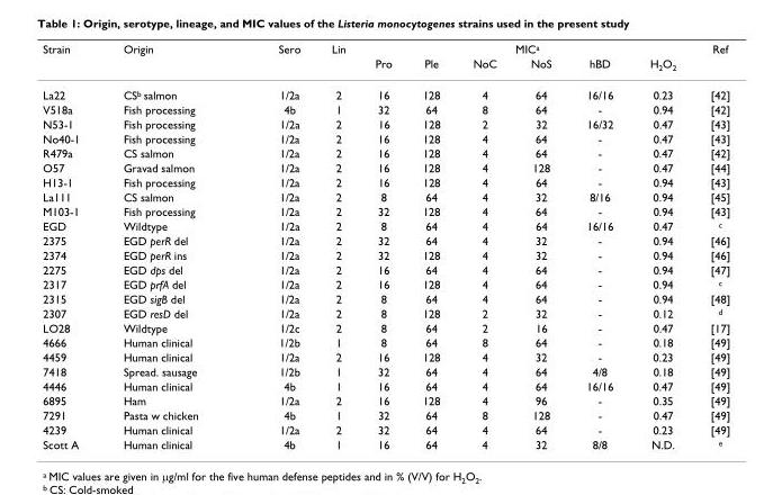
<table><thead><tr><td rowspan="2">Strain</td><td rowspan="2">Origin</td><td rowspan="2">Sero</td><td rowspan="2">Lin</td><td colspan="6">MIC<sup>a</sup></td><td rowspan="2">Ref</td></tr><tr><td>Pro</td><td>Ple</td><td>NoC</td><td>NoS</td><td>hBD</td><td>H<sub>2</sub>O<sub>2</sub></td></tr></thead><tbody><tr><td>La22</td><td>CS<sup>b</sup> salmon</td><td>1/2a</td><td>2</td><td>16</td><td>128</td><td>4</td><td>64</td><td>16/16</td><td>0.23</td><td>[42]</td></tr><tr><td>V518a</td><td>Fish processing</td><td>4b</td><td>1</td><td>32</td><td>64</td><td>8</td><td>64</td><td>-</td><td>0.94</td><td>[42]</td></tr><tr><td>N53-1</td><td>Fish processing</td><td>1/2a</td><td>2</td><td>16</td><td>128</td><td>2</td><td>32</td><td>16/32</td><td>0.47</td><td>[43]</td></tr><tr><td>No40-1</td><td>Fish processing</td><td>1/2a</td><td>2</td><td>16</td><td>128</td><td>4</td><td>64</td><td>-</td><td>0.47</td><td>[43]</td></tr><tr><td>R479a</td><td>CS salmon</td><td>1/2a</td><td>2</td><td>16</td><td>128</td><td>4</td><td>64</td><td>-</td><td>0.47</td><td>[42]</td></tr><tr><td>O57</td><td>Gravad salmon</td><td>1/2a</td><td>2</td><td>16</td><td>128</td><td>4</td><td>128</td><td>-</td><td>0.47</td><td>[44]</td></tr><tr><td>H13-1</td><td>Fish processing</td><td>1/2a</td><td>2</td><td>16</td><td>128</td><td>4</td><td>64</td><td>-</td><td>0.94</td><td>[43]</td></tr><tr><td>La111</td><td>CS salmon</td><td>1/2a</td><td>2</td><td>8</td><td>64</td><td>4</td><td>32</td><td>8/16</td><td>0.94</td><td>[45]</td></tr><tr><td>M103-1</td><td>Fish processing</td><td>1/2a</td><td>2</td><td>32</td><td>128</td><td>4</td><td>64</td><td>-</td><td>0.94</td><td>[43]</td></tr><tr><td>EGD</td><td>Wildtype</td><td>1/2a</td><td>2</td><td>8</td><td>64</td><td>4</td><td>64</td><td>16/16</td><td>0.47</td><td><sup>c</sup></td></tr><tr><td>2375</td><td>EGD perR del</td><td>1/2a</td><td>2</td><td>32</td><td>64</td><td>4</td><td>32</td><td>-</td><td>0.94</td><td>[46]</td></tr><tr><td>2374</td><td>EGD perR ins</td><td>1/2a</td><td>2</td><td>32</td><td>128</td><td>4</td><td>32</td><td>-</td><td>0.94</td><td>[46]</td></tr><tr><td>2275</td><td>EGD dps del</td><td>1/2a</td><td>2</td><td>16</td><td>64</td><td>4</td><td>64</td><td>-</td><td>0.94</td><td>[47]</td></tr><tr><td>2317</td><td>EGD prfA del</td><td>1/2a</td><td>2</td><td>16</td><td>128</td><td>4</td><td>64</td><td>-</td><td>0.94</td><td><sup>c</sup></td></tr><tr><td>2315</td><td>EGD sigB del</td><td>1/2a</td><td>2</td><td>8</td><td>64</td><td>4</td><td>64</td><td>-</td><td>0.94</td><td>[48]</td></tr><tr><td>2307</td><td>EGD resD del</td><td>1/2a</td><td>2</td><td>8</td><td>128</td><td>2</td><td>32</td><td>-</td><td>0.12</td><td><sup>d</sup></td></tr><tr><td>LO28</td><td>Wildtype</td><td>1/2c</td><td>2</td><td>8</td><td>64</td><td>2</td><td>16</td><td>-</td><td>0.47</td><td>[17]</td></tr><tr><td>4666</td><td>Human clinical</td><td>1/2b</td><td>1</td><td>8</td><td>64</td><td>8</td><td>64</td><td>-</td><td>0.18</td><td>[49]</td></tr><tr><td>4459</td><td>Human clinical</td><td>1/2a</td><td>2</td><td>16</td><td>128</td><td>4</td><td>32</td><td>-</td><td>0.23</td><td>[49]</td></tr><tr><td>7418</td><td>Spread. sausage</td><td>1/2b</td><td>1</td><td>32</td><td>64</td><td>4</td><td>64</td><td>4/8</td><td>0.18</td><td>[49]</td></tr><tr><td>4446</td><td>Human clinical</td><td>4b</td><td>1</td><td>16</td><td>64</td><td>4</td><td>64</td><td>16/16</td><td>0.47</td><td>[49]</td></tr><tr><td>6895</td><td>Ham</td><td>1/2a</td><td>2</td><td>16</td><td>128</td><td>4</td><td>96</td><td>-</td><td>0.35</td><td>[49]</td></tr><tr><td>7291</td><td>Pasta w chicken</td><td>4b</td><td>1</td><td>32</td><td>64</td><td>8</td><td>128</td><td>-</td><td>0.47</td><td>[49]</td></tr><tr><td>4239</td><td>Human clinical</td><td>1/2a</td><td>2</td><td>32</td><td>64</td><td>4</td><td>64</td><td>-</td><td>0.23</td><td>[49]</td></tr><tr><td>Scott A</td><td>Human clinical</td><td>4b</td><td>1</td><td>16</td><td>64</td><td>4</td><td>32</td><td>8/8</td><td>N.D.</td><td><sup>e</sup></td></tr></tbody></table>